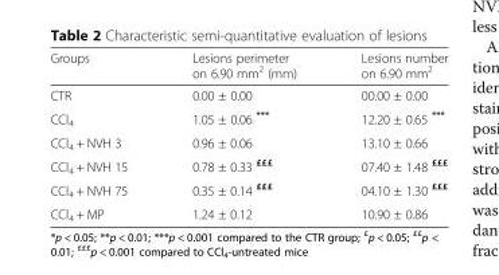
<table><thead><tr><td>Groups</td><td>Lesions perimeter on 6.90 mm<sup>2</sup> (mm)</td><td>Lesions number on 6.90 mm<sup>2</sup></td></tr></thead><tbody><tr><td>CTR</td><td>0.00 ± 0.00</td><td>00.00 ± 0.00</td></tr><tr><td>CCl<sub>4</sub></td><td>1.05 ± 0.06 ***</td><td>12.20 ± 0.65 ***</td></tr><tr><td>CCl<sub>4</sub> + NVH 3</td><td>0.96 ± 0.06</td><td>13.10 ± 0.66</td></tr><tr><td>CCl<sub>4</sub> + NVH 15</td><td>0.78 ± 0.33 <sup>£££</sup></td><td>07.40 ± 1.48 <sup>£££</sup></td></tr><tr><td>CCl<sub>4</sub> + NVH 75</td><td>0.35 ± 0.14 <sup>£££</sup></td><td>04.10 ± 1.30 <sup>£££</sup></td></tr><tr><td>CCl<sub>4</sub> + MP</td><td>1.24 ± 0.12</td><td>10.90 ± 0.86</td></tr></tbody></table>